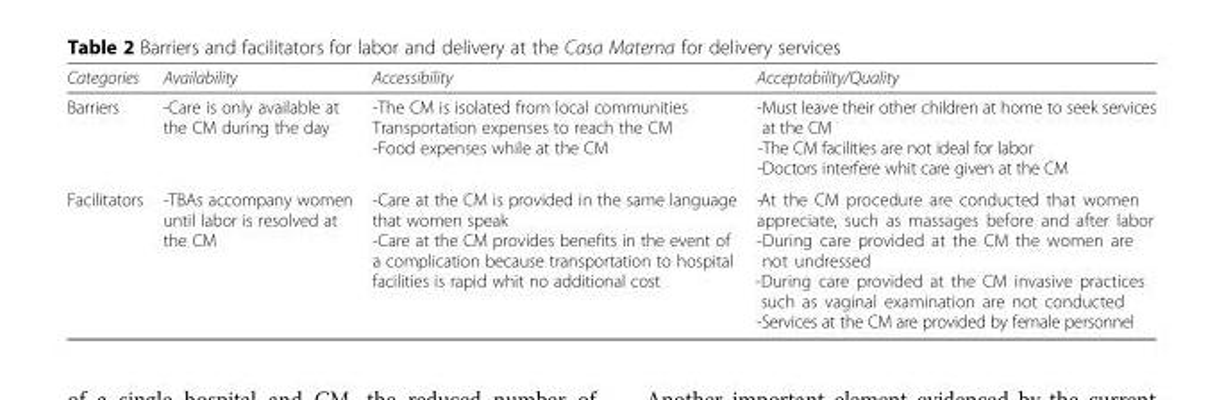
<table><thead><tr><td>Categories</td><td>Availability</td><td>Accessibility</td><td>Acceptability/Quality</td></tr></thead><tbody><tr><td>Barriers</td><td>-Care is only available at the CM during the day</td><td>-The CM is isolated from local communities Transportation expenses to reach the CM -Food expenses while at the CM</td><td>-Must leave their other children at home to seek services at the CM -The CM facilities are not ideal for labor -Doctors interfere whit care given at the CM</td></tr><tr><td>Facilitators</td><td>-TBAs accompany women until labor is resolved at the CM</td><td>-Care at the CM is provided in the same language that women speak -Care at the CM provides benefits in the event of a complication because transportation to hospital facilities is rapid whit no additional cost</td><td>-At the CM procedure are conducted that women appreciate, such as massages before and after labor -During care provided at the CM the women are not undressed -During care provided at the CM invasive practices such as vaginal examination are not conducted -Services at the CM are provided by female personnel</td></tr></tbody></table>